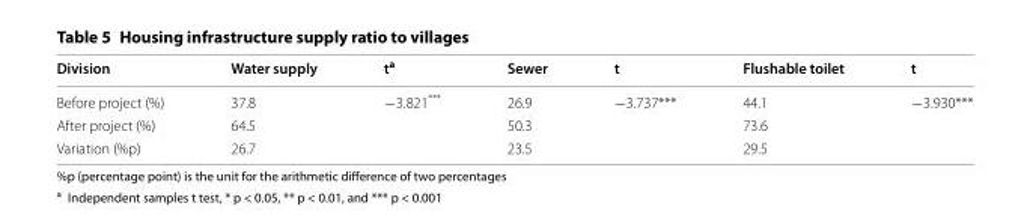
<table><thead><tr><td>Division</td><td>Water supply</td><td>t<sup>a</sup></td><td>Sewer</td><td>t</td><td>Flushable toilet</td><td>t</td></tr></thead><tbody><tr><td>Before project (%)</td><td>37.8</td><td rowspan="2">−3.821***</td><td>26.9</td><td rowspan="2">−3.737***</td><td>44.1</td><td rowspan="2">−3.930***</td></tr><tr><td>After project (%)</td><td>64.5</td><td>50.3</td><td>73.6</td></tr><tr><td>Variation (%p)</td><td>26.7</td><td></td><td>23.5</td><td></td><td>29.5</td><td></td></tr></tbody></table>